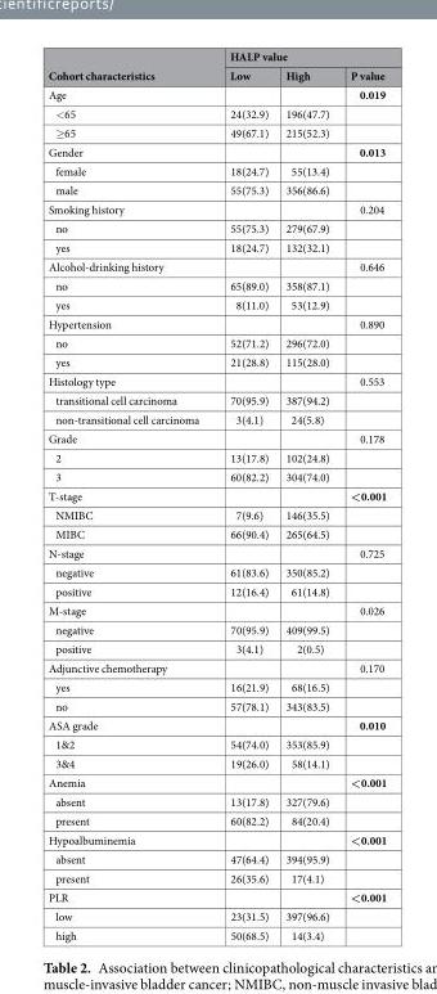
<table><thead><tr><td rowspan="2">Cohort characteristics</td><td colspan="3">HALP value</td></tr><tr><td>Low</td><td>High</td><td>P value</td></tr></thead><tbody><tr><td>Age</td><td></td><td></td><td>0.019</td></tr><tr><td>&lt;65</td><td>24(32.9)</td><td>196(47.7)</td><td></td></tr><tr><td>≥65</td><td>49(67.1)</td><td>215(52.3)</td><td></td></tr><tr><td>Gender</td><td></td><td></td><td>0.013</td></tr><tr><td>female</td><td>18(24.7)</td><td>55(13.4)</td><td></td></tr><tr><td>male</td><td>55(75.3)</td><td>356(86.6)</td><td></td></tr><tr><td>Smoking history</td><td></td><td></td><td>0.204</td></tr><tr><td>no</td><td>55(75.3)</td><td>279(67.9)</td><td></td></tr><tr><td>yes</td><td>18(24.7)</td><td>132(32.1)</td><td></td></tr><tr><td>Alcohol-drinking history</td><td></td><td></td><td>0.646</td></tr><tr><td>no</td><td>65(89.0)</td><td>358(87.1)</td><td></td></tr><tr><td>yes</td><td>8(11.0)</td><td>53(12.9)</td><td></td></tr><tr><td>Hypertension</td><td></td><td></td><td>0.890</td></tr><tr><td>no</td><td>52(71.2)</td><td>296(72.0)</td><td></td></tr><tr><td>yes</td><td>21(28.8)</td><td>115(28.0)</td><td></td></tr><tr><td>Histology type</td><td></td><td></td><td>0.553</td></tr><tr><td>transitional cell carcinoma</td><td>70(95.9)</td><td>387(94.2)</td><td></td></tr><tr><td>non-transitional cell carcinoma</td><td>3(4.1)</td><td>24(5.8)</td><td></td></tr><tr><td>Grade</td><td></td><td></td><td>0.178</td></tr><tr><td>2</td><td>13(17.8)</td><td>102(24.8)</td><td></td></tr><tr><td>3</td><td>60(82.2)</td><td>304(74.0)</td><td></td></tr><tr><td>T-stage</td><td></td><td></td><td>&lt;0.001</td></tr><tr><td>NMIBC</td><td>7(9.6)</td><td>146(35.5)</td><td></td></tr><tr><td>MIBC</td><td>66(90.4)</td><td>265(64.5)</td><td></td></tr><tr><td>N-stage</td><td></td><td></td><td>0.725</td></tr><tr><td>negative</td><td>61(83.6)</td><td>350(85.2)</td><td></td></tr><tr><td>positive</td><td>12(16.4)</td><td>61(14.8)</td><td></td></tr><tr><td>M-stage</td><td></td><td></td><td>0.026</td></tr><tr><td>negative</td><td>70(95.9)</td><td>409(99.5)</td><td></td></tr><tr><td>positive</td><td>3(4.1)</td><td>2(0.5)</td><td></td></tr><tr><td>Adjunctive chemotherapy</td><td></td><td></td><td>0.170</td></tr><tr><td>yes</td><td>16(21.9)</td><td>68(16.5)</td><td></td></tr><tr><td>no</td><td>57(78.1)</td><td>343(83.5)</td><td></td></tr><tr><td>ASA grade</td><td></td><td></td><td>0.010</td></tr><tr><td>1&amp;2</td><td>54(74.0)</td><td>353(85.9)</td><td></td></tr><tr><td>3&amp;4</td><td>19(26.0)</td><td>58(14.1)</td><td></td></tr><tr><td>Anemia</td><td></td><td></td><td>&lt;0.001</td></tr><tr><td>absent</td><td>13(17.8)</td><td>327(79.6)</td><td></td></tr><tr><td>present</td><td>60(82.2)</td><td>84(20.4)</td><td></td></tr><tr><td>Hypoalbuminemia</td><td></td><td></td><td>&lt;0.001</td></tr><tr><td>absent</td><td>47(64.4)</td><td>394(95.9)</td><td></td></tr><tr><td>present</td><td>26(35.6)</td><td>17(4.1)</td><td></td></tr><tr><td>PLR</td><td></td><td></td><td>&lt;0.001</td></tr><tr><td>low</td><td>23(31.5)</td><td>397(96.6)</td><td></td></tr><tr><td>high</td><td>50(68.5)</td><td>14(3.4)</td><td></td></tr></tbody></table>